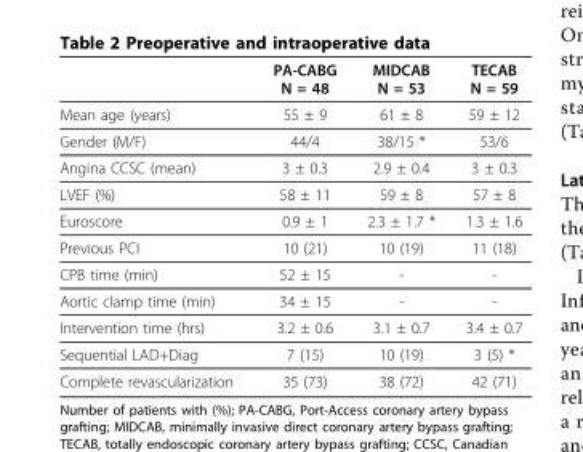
<table><thead><tr><td></td><td>PA-CABG N = 48</td><td>MIDCAB N = 53</td><td>TECAB N = 59</td></tr></thead><tbody><tr><td>Mean age (years)</td><td>55 ± 9</td><td>61 ± 8</td><td>59 ± 12</td></tr><tr><td>Gender (M/F)</td><td>44/4</td><td>38/15 *</td><td>53/6</td></tr><tr><td>Angina CCSC (mean)</td><td>3 ± 0.3</td><td>2.9 ± 0.4</td><td>3 ± 0.3</td></tr><tr><td>LVEF (%)</td><td>58 ± 11</td><td>59 ± 8</td><td>57 ± 8</td></tr><tr><td>Euroscore</td><td>0.9 ± 1</td><td>2.3 ± 1.7 *</td><td>1.3 ± 1.6</td></tr><tr><td>Previous PCI</td><td>10 (21)</td><td>10 (19)</td><td>11 (18)</td></tr><tr><td>CPB time (min)</td><td>52 ± 15</td><td>-</td><td>-</td></tr><tr><td>Aortic clamp time (min)</td><td>34 ± 15</td><td>-</td><td>-</td></tr><tr><td>Intervention time (hrs)</td><td>3.2 ± 0.6</td><td>3.1 ± 0.7</td><td>3.4 ± 0.7</td></tr><tr><td>Sequential LAD+Diag</td><td>7 (15)</td><td>10 (19)</td><td>3 (5) *</td></tr><tr><td>Complete revascularization</td><td>35 (73)</td><td>38 (72)</td><td>42 (71)</td></tr></tbody></table>